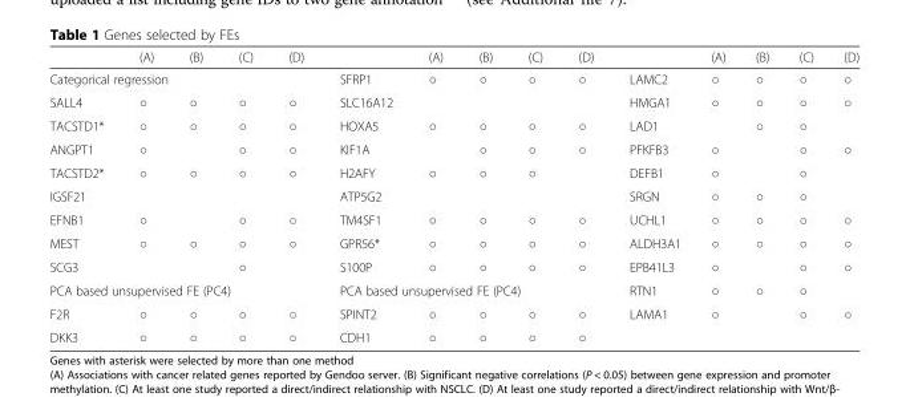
<table><thead><tr><td></td><td>(A)</td><td>(B)</td><td>(C)</td><td>(D)</td><td></td><td>(A)</td><td>(B)</td><td>(C)</td><td>(D)</td><td></td><td>(A)</td><td>(B)</td><td>(C)</td><td>(D)</td></tr></thead><tbody><tr><td colspan="5">Categorical regression</td><td>SFRP1</td><td>○</td><td>○</td><td>○</td><td>○</td><td>LAMC2</td><td>○</td><td>○</td><td>○</td><td>○</td></tr><tr><td>SALL4</td><td>○</td><td>○</td><td>○</td><td>○</td><td>SLC16A12</td><td></td><td></td><td></td><td></td><td>HMGA1</td><td>○</td><td>○</td><td>○</td><td>○</td></tr><tr><td>TACSTD1*</td><td>○</td><td>○</td><td>○</td><td>○</td><td>HOXA5</td><td>○</td><td>○</td><td>○</td><td>○</td><td>LAD1</td><td></td><td>○</td><td>○</td><td></td></tr><tr><td>ANGPT1</td><td>○</td><td></td><td>○</td><td>○</td><td>KIF1A</td><td></td><td>○</td><td>○</td><td>○</td><td>PFKFB3</td><td>○</td><td></td><td>○</td><td>○</td></tr><tr><td>TACSTD2*</td><td>○</td><td>○</td><td>○</td><td>○</td><td>H2AFY</td><td>○</td><td>○</td><td>○</td><td></td><td>DEFB1</td><td>○</td><td></td><td>○</td><td></td></tr><tr><td>IGSF21</td><td></td><td></td><td></td><td></td><td>ATP5G2</td><td></td><td></td><td></td><td></td><td>SRGN</td><td>○</td><td>○</td><td>○</td><td></td></tr><tr><td>EFNB1</td><td>○</td><td></td><td>○</td><td>○</td><td>TM4SF1</td><td>○</td><td>○</td><td>○</td><td>○</td><td>UCHL1</td><td>○</td><td>○</td><td>○</td><td>○</td></tr><tr><td>MEST</td><td>○</td><td>○</td><td>○</td><td>○</td><td>GPR56*</td><td>○</td><td>○</td><td>○</td><td>○</td><td>ALDH3A1</td><td>○</td><td>○</td><td>○</td><td>○</td></tr><tr><td>SCG3</td><td></td><td></td><td>○</td><td></td><td>S100P</td><td>○</td><td>○</td><td>○</td><td>○</td><td>EPB41L3</td><td>○</td><td></td><td>○</td><td>○</td></tr><tr><td colspan="5">PCA based unsupervised FE (PC4)</td><td colspan="5">PCA based unsupervised FE (PC4)</td><td>RTN1</td><td>○</td><td>○</td><td>○</td><td></td></tr><tr><td>F2R</td><td>○</td><td>○</td><td>○</td><td>○</td><td>SPINT2</td><td>○</td><td>○</td><td>○</td><td>○</td><td>LAMA1</td><td>○</td><td></td><td>○</td><td>○</td></tr><tr><td>DKK3</td><td>○</td><td>○</td><td>○</td><td>○</td><td>CDH1</td><td>○</td><td>○</td><td>○</td><td>○</td><td></td><td></td><td></td><td></td><td></td></tr></tbody></table>